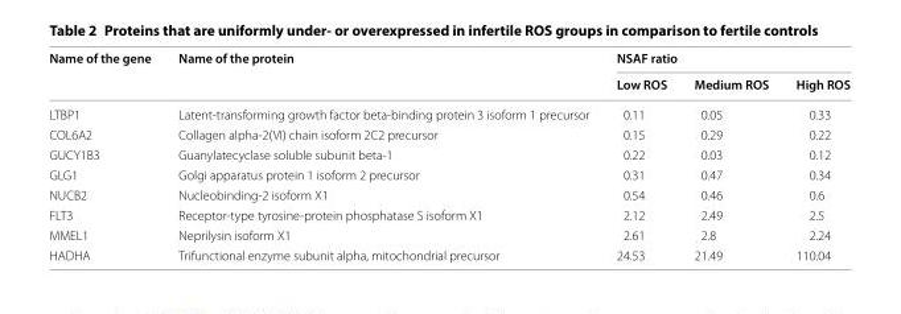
<table><thead><tr><td rowspan="2">Name of the gene</td><td rowspan="2">Name of the protein</td><td colspan="3">NSAF ratio</td></tr><tr><td>Low ROS</td><td>Medium ROS</td><td>High ROS</td></tr></thead><tbody><tr><td>LTBP1</td><td>Latent-transforming growth factor beta-binding protein 3 isoform 1 precursor</td><td>0.11</td><td>0.05</td><td>0.33</td></tr><tr><td>COL6A2</td><td>Collagen alpha-2(VI) chain isoform 2C2 precursor</td><td>0.15</td><td>0.29</td><td>0.22</td></tr><tr><td>GUCY1B3</td><td>Guanylatecyclase soluble subunit beta-1</td><td>0.22</td><td>0.03</td><td>0.12</td></tr><tr><td>GLG1</td><td>Golgi apparatus protein 1 isoform 2 precursor</td><td>0.31</td><td>0.47</td><td>0.34</td></tr><tr><td>NUCB2</td><td>Nucleobinding-2 isoform X1</td><td>0.54</td><td>0.46</td><td>0.6</td></tr><tr><td>FLT3</td><td>Receptor-type tyrosine-protein phosphatase S isoform X1</td><td>2.12</td><td>2.49</td><td>2.5</td></tr><tr><td>MMEL1</td><td>Neprilysin isoform X1</td><td>2.61</td><td>2.8</td><td>2.24</td></tr><tr><td>HADHA</td><td>Trifunctional enzyme subunit alpha, mitochondrial precursor</td><td>24.53</td><td>21.49</td><td>110.04</td></tr></tbody></table>